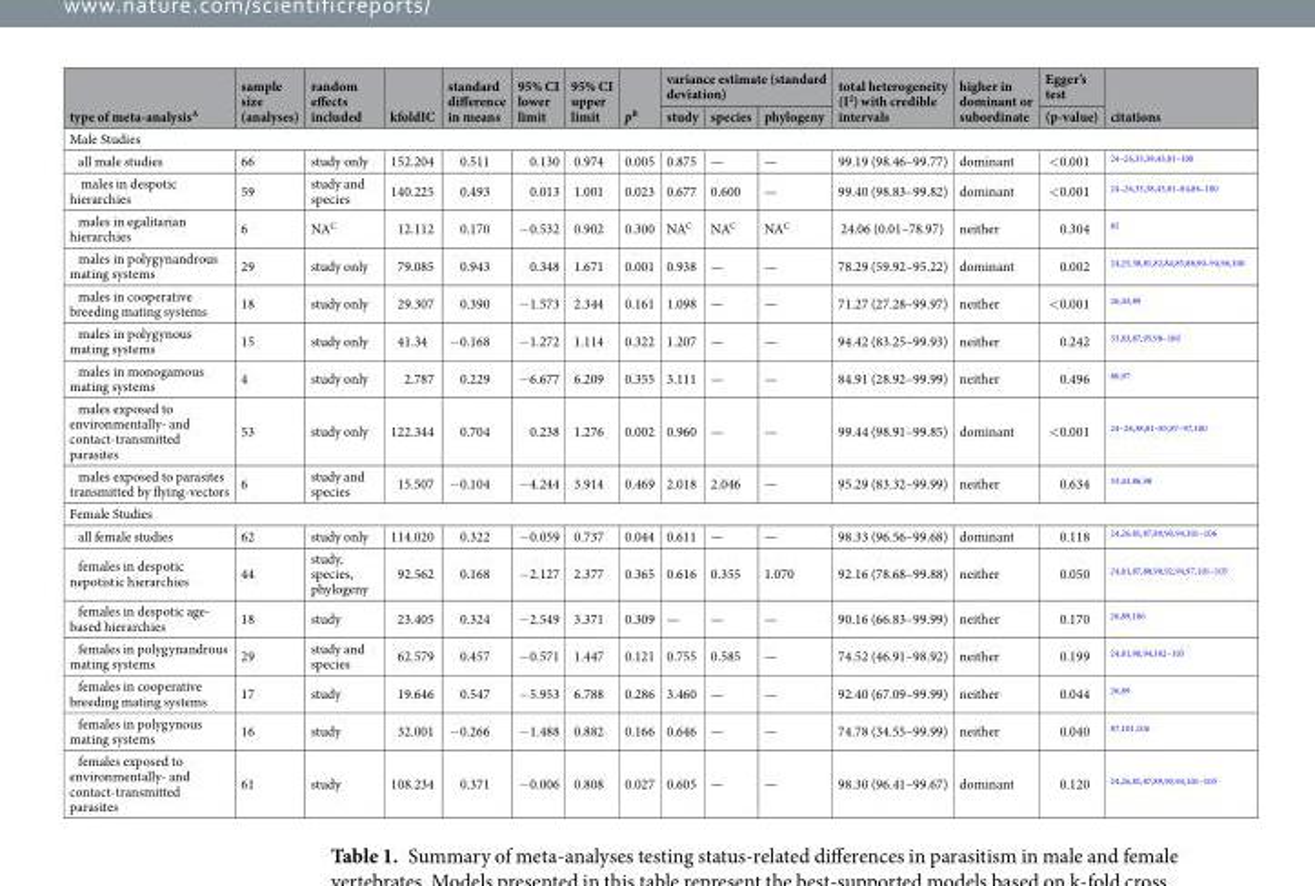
<table><thead><tr><td rowspan="2">type of meta-analysis<sup>A</sup></td><td rowspan="2">sample size (analyses)</td><td rowspan="2">random effects included</td><td rowspan="2">kfoldIC</td><td rowspan="2">standard difference in means</td><td rowspan="2">95% CI lower limit</td><td rowspan="2">95% CI upper limit</td><td rowspan="2">p<sup>B</sup></td><td colspan="3">variance estimate (standard deviation)</td><td rowspan="2">total heterogeneity (I<sup>2</sup>) with credible intervals</td><td rowspan="2">higher in dominant or subordinate</td><td rowspan="2">Egger’s test (p-value)</td><td rowspan="2">citations</td></tr><tr><td>study</td><td>species</td><td>phylogeny</td></tr></thead><tbody><tr><td colspan="15">Male Studies</td></tr><tr><td>all male studies</td><td>66</td><td>study only</td><td>152.204</td><td>0.511</td><td>0.130</td><td>0.974</td><td>0.005</td><td>0.875</td><td>—</td><td>—</td><td>99.19 (98.46–99.77)</td><td>dominant</td><td>&lt;0.001</td><td><sup>24–26,33,38,43,81–100</sup></td></tr><tr><td>males in despotic hierarchies</td><td>59</td><td>study and species</td><td>140.225</td><td>0.493</td><td>0.013</td><td>1.001</td><td>0.023</td><td>0.677</td><td>0.600</td><td>—</td><td>99.40 (98.83–99.82)</td><td>dominant</td><td>&lt;0.001</td><td><sup>24–26,33,38,43,81–84,86–100</sup></td></tr><tr><td>males in egalitarian hierarchies</td><td>6</td><td>NA<sup>C</sup></td><td>12.112</td><td>0.170</td><td>−0.532</td><td>0.902</td><td>0.300</td><td>NA<sup>C</sup></td><td>NA<sup>C</sup></td><td>NA<sup>C</sup></td><td>24.06 (0.01–78.97)</td><td>neither</td><td>0.304</td><td><sup>85</sup></td></tr><tr><td>males in polygynandrous mating systems</td><td>29</td><td>study only</td><td>79.085</td><td>0.943</td><td>0.348</td><td>1.671</td><td>0.001</td><td>0.938</td><td>—</td><td>—</td><td>78.29 (59.92–95.22)</td><td>dominant</td><td>0.002</td><td><sup>24,25,38,81,82,84,85,88,90–94,96,100</sup></td></tr><tr><td>males in cooperative breeding mating systems</td><td>18</td><td>study only</td><td>29.307</td><td>0.390</td><td>−1.573</td><td>2.344</td><td>0.161</td><td>1.098</td><td>—</td><td>—</td><td>71.27 (27.28–99.97)</td><td>neither</td><td>&lt;0.001</td><td><sup>26,43,89</sup></td></tr><tr><td>males in polygynous mating systems</td><td>15</td><td>study only</td><td>41.34</td><td>−0.168</td><td>−1.272</td><td>1.114</td><td>0.322</td><td>1.207</td><td>—</td><td>—</td><td>94.42 (83.25–99.93)</td><td>neither</td><td>0.242</td><td><sup>33,83,87,95,98–100</sup></td></tr><tr><td>males in monogamous mating systems</td><td>4</td><td>study only</td><td>2.787</td><td>0.229</td><td>−6.677</td><td>6.209</td><td>0.355</td><td>3.111</td><td>—</td><td>—</td><td>84.91 (28.92–99.99)</td><td>neither</td><td>0.496</td><td><sup>86,97</sup></td></tr><tr><td>males exposed to environmentally- and contact-transmitted parasites</td><td>53</td><td>study only</td><td>122.344</td><td>0.704</td><td>0.238</td><td>1.276</td><td>0.002</td><td>0.960</td><td>—</td><td>—</td><td>99.44 (98.91–99.85)</td><td>dominant</td><td>&lt;0.001</td><td><sup>24–26,38,81–85,87–97,100</sup></td></tr><tr><td>males exposed to parasites transmitted by flying-vectors</td><td>6</td><td>study and species</td><td>15.507</td><td>−0.104</td><td>−4.244</td><td>3.914</td><td>0.469</td><td>2.018</td><td>2.046</td><td>—</td><td>95.29 (83.32–99.99)</td><td>neither</td><td>0.634</td><td><sup>33,43,86,98</sup></td></tr><tr><td colspan="15">Female Studies</td></tr><tr><td>all female studies</td><td>62</td><td>study only</td><td>114.020</td><td>0.322</td><td>−0.059</td><td>0.737</td><td>0.044</td><td>0.611</td><td>—</td><td>—</td><td>98.33 (96.56–99.68)</td><td>dominant</td><td>0.118</td><td><sup>24,26,81,87,89,90,94,101–106</sup></td></tr><tr><td>females in despotic nepotistic hierarchies</td><td>44</td><td>study, species, phylogeny</td><td>92.562</td><td>0.168</td><td>−2.127</td><td>2.377</td><td>0.365</td><td>0.616</td><td>0.355</td><td>1.070</td><td>92.16 (78.68–99.88)</td><td>neither</td><td>0.050</td><td><sup>24,81,87,88,90,92,94,97,101–105</sup></td></tr><tr><td>females in despotic age- based hierarchies</td><td>18</td><td>study</td><td>23.405</td><td>0.324</td><td>−2.549</td><td>3.371</td><td>0.309</td><td>—</td><td>—</td><td>—</td><td>90.16 (66.83–99.99)</td><td>neither</td><td>0.170</td><td><sup>26,89,106</sup></td></tr><tr><td>females in polygynandrous mating systems</td><td>29</td><td>study and species</td><td>62.579</td><td>0.457</td><td>−0.571</td><td>1.447</td><td>0.121</td><td>0.755</td><td>0.585</td><td>—</td><td>74.52 (46.91–98.92)</td><td>neither</td><td>0.199</td><td><sup>24,81,90,94,102–105</sup></td></tr><tr><td>females in cooperative breeding mating systems</td><td>17</td><td>study</td><td>19.646</td><td>0.547</td><td>−5.953</td><td>6.788</td><td>0.286</td><td>3.460</td><td>—</td><td>—</td><td>92.40 (67.09–99.99)</td><td>neither</td><td>0.044</td><td><sup>26,89</sup></td></tr><tr><td>females in polygynous mating systems</td><td>16</td><td>study</td><td>32.001</td><td>−0.266</td><td>−1.488</td><td>0.882</td><td>0.166</td><td>0.646</td><td>—</td><td>—</td><td>74.78 (34.55–99.99)</td><td>neither</td><td>0.040</td><td><sup>87,101,106</sup></td></tr><tr><td>females exposed to environmentally- and contact-transmitted parasites</td><td>61</td><td>study</td><td>108.234</td><td>0.371</td><td>−0.006</td><td>0.808</td><td>0.027</td><td>0.605</td><td>—</td><td>—</td><td>98.30 (96.41–99.67)</td><td>dominant</td><td>0.120</td><td><sup>24,26,81,87,89,90,94,101–105</sup></td></tr></tbody></table>